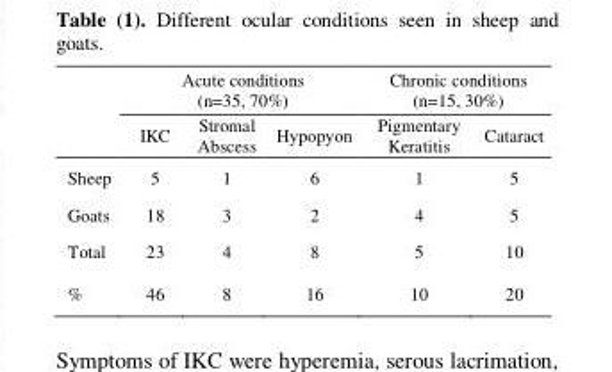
<table><thead><tr><td rowspan="2"></td><td colspan="3">Acute conditions (n=35, 70%)</td><td colspan="2">Chronic conditions (n=15, 30%)</td></tr><tr><td>IKC</td><td>Stromal Abscess</td><td>Hypopyon</td><td>Pigmentary Keratitis</td><td>Cataract</td></tr></thead><tbody><tr><td>Sheep</td><td>5</td><td>1</td><td>6</td><td>1</td><td>5</td></tr><tr><td>Goats</td><td>18</td><td>3</td><td>2</td><td>4</td><td>5</td></tr><tr><td>Total</td><td>23</td><td>4</td><td>8</td><td>5</td><td>10</td></tr><tr><td>%</td><td>46</td><td>8</td><td>16</td><td>10</td><td>20</td></tr></tbody></table>